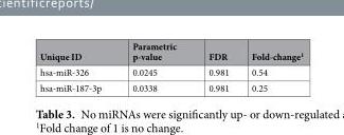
<table><thead><tr><td>Unique ID</td><td>Parametric p-value</td><td>FDR</td><td>Fold-change<sup>1</sup></td></tr></thead><tbody><tr><td>hsa-miR-326</td><td>0.0245</td><td>0.981</td><td>0.54</td></tr><tr><td>hsa-miR-187-3p</td><td>0.0338</td><td>0.981</td><td>0.25</td></tr></tbody></table>